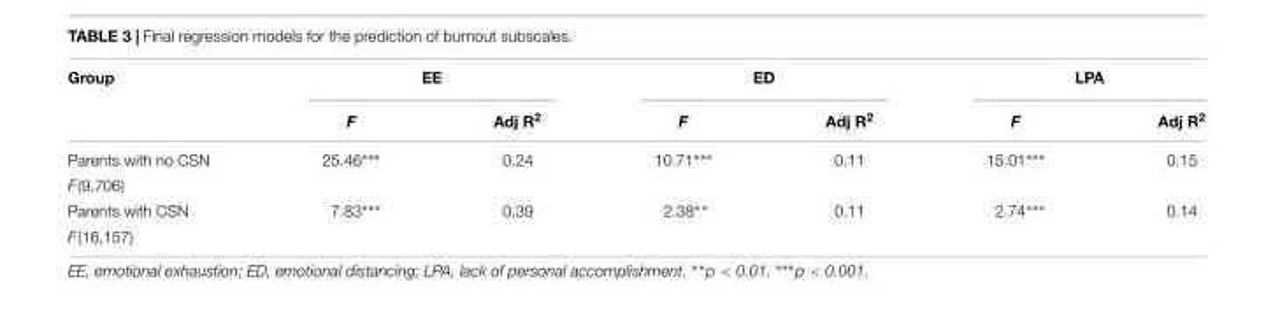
<table><thead><tr><td rowspan="2">Group</td><td colspan="2">EE</td><td colspan="2">ED</td><td colspan="2">LPA</td></tr><tr><td>F</td><td>Adj R<sup>2</sup></td><td>F</td><td>Adj R<sup>2</sup></td><td>F</td><td>Adj R<sup>2</sup></td></tr></thead><tbody><tr><td>Parents with no CSN</td><td>25.46∗∗∗</td><td>0.24</td><td>10.71∗∗∗</td><td>0.11</td><td>15.01∗∗∗</td><td>0.15</td></tr><tr><td colspan="7">F(9,706)</td></tr><tr><td>Parents with CSN</td><td>7.83∗∗∗</td><td>0.39</td><td>2.38∗∗</td><td>0.11</td><td>2.74∗∗∗</td><td>0.14</td></tr><tr><td>F(16,157)</td><td></td><td></td><td></td><td></td><td></td><td></td></tr></tbody></table>